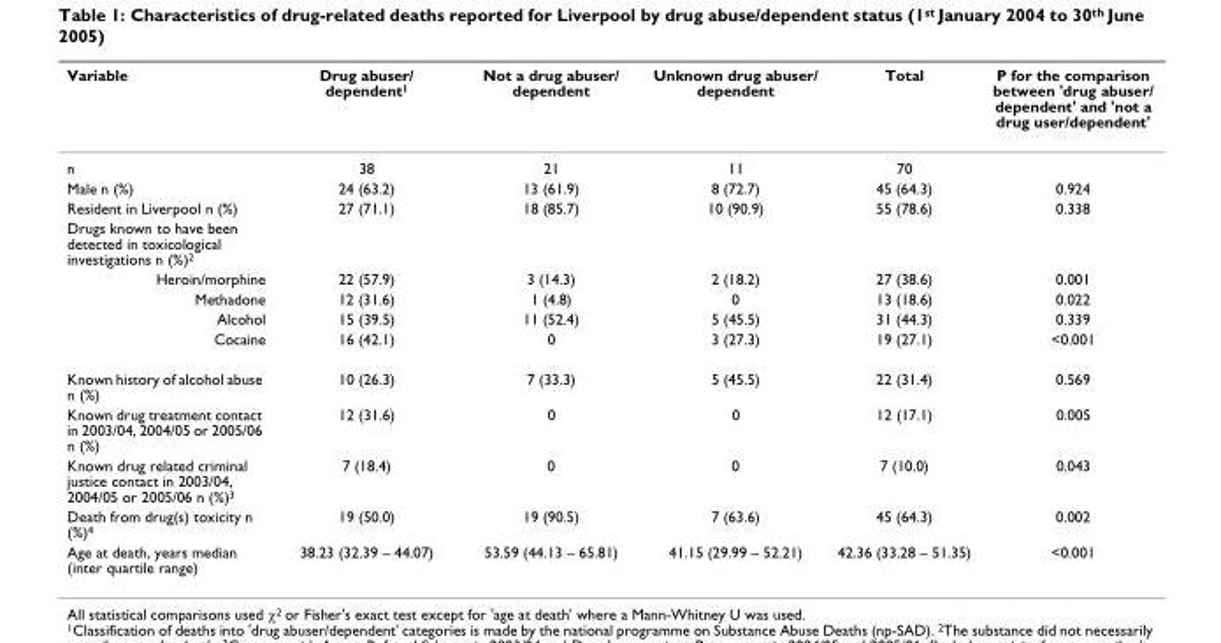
<table><thead><tr><td>Variable</td><td>Drug abuser/ dependent<sup>1</sup></td><td>Not a drug abuser/ dependent</td><td>Unknown drug abuser/ dependent</td><td>Total</td><td>P for the comparison between &#x27;drug abuser/ dependent&#x27; and &#x27;not a drug user/dependent&#x27;</td></tr></thead><tbody><tr><td>n</td><td>38</td><td>21</td><td>11</td><td>70</td><td></td></tr><tr><td>Male n (%)</td><td>24 (63.2)</td><td>13 (61.9)</td><td>8 (72.7)</td><td>45 (64.3)</td><td>0.924</td></tr><tr><td>Resident in Liverpool n (%)</td><td>27 (71.1)</td><td>18 (85.7)</td><td>10 (90.9)</td><td>55 (78.6)</td><td>0.338</td></tr><tr><td colspan="6">Drugs known to have been detected in toxicological investigations n (%)<sup>2</sup></td></tr><tr><td>Heroin/morphine</td><td>22 (57.9)</td><td>3 (14.3)</td><td>2 (18.2)</td><td>27 (38.6)</td><td>0.001</td></tr><tr><td>Methadone</td><td>12 (31.6)</td><td>1 (4.8)</td><td>0</td><td>13 (18.6)</td><td>0.022</td></tr><tr><td>Alcohol</td><td>15 (39.5)</td><td>11 (52.4)</td><td>5 (45.5)</td><td>31 (44.3)</td><td>0.339</td></tr><tr><td>Cocaine</td><td>16 (42.1)</td><td>0</td><td>3 (27.3)</td><td>19 (27.1)</td><td>&lt;0.001</td></tr><tr><td>Known history of alcohol abuse n (%)</td><td>10 (26.3)</td><td>7 (33.3)</td><td>5 (45.5)</td><td>22 (31.4)</td><td>0.569</td></tr><tr><td>Known drug treatment contact in 2003/04, 2004/05 or 2005/06 n (%)</td><td>12 (31.6)</td><td>0</td><td>0</td><td>12 (17.1)</td><td>0.005</td></tr><tr><td>Known drug related criminal justice contact in 2003/04, 2004/05 or 2005/06 n (%)<sup>3</sup></td><td>7 (18.4)</td><td>0</td><td>0</td><td>7 (10.0)</td><td>0.043</td></tr><tr><td>Death from drug(s) toxicity n (%)<sup>4</sup></td><td>19 (50.0)</td><td>19 (90.5)</td><td>7 (63.6)</td><td>45 (64.3)</td><td>0.002</td></tr><tr><td>Age at death, years median (inter quartile range)</td><td>38.23 (32.39 – 44.07)</td><td>53.59 (44.13 – 65.81)</td><td>41.15 (29.99 – 52.21)</td><td>42.36 (33.28 – 51.35)</td><td>&lt;0.001</td></tr></tbody></table>